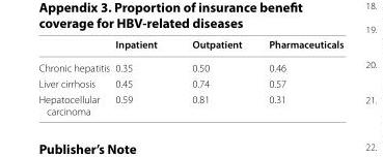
<table><thead><tr><td></td><td>Inpatient</td><td>Outpatient</td><td>Pharmaceuticals</td></tr></thead><tbody><tr><td>Chronic hepatitis</td><td>0.35</td><td>0.50</td><td>0.46</td></tr><tr><td>Liver cirrhosis</td><td>0.45</td><td>0.74</td><td>0.57</td></tr><tr><td>Hepatocellular carcinoma</td><td>0.59</td><td>0.81</td><td>0.31</td></tr></tbody></table>